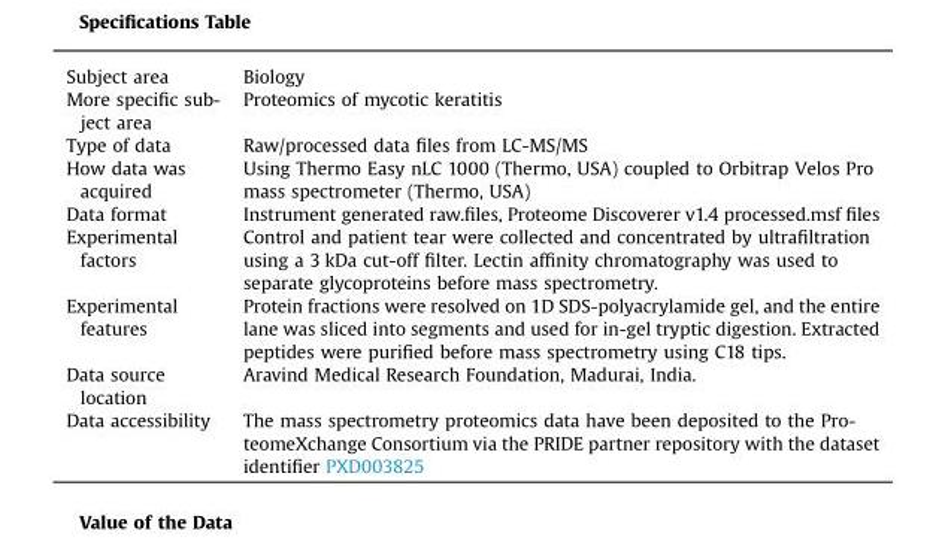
<table><tbody><tr><td>Subject area</td><td>Biology</td></tr><tr><td>More specific sub- ject area</td><td>Proteomics of mycotic keratitis</td></tr><tr><td>Type of data</td><td>Raw/processed data files from LC-MS/MS</td></tr><tr><td>How data was acquired</td><td>Using Thermo Easy nLC 1000 (Thermo, USA) coupled to Orbitrap Velos Pro mass spectrometer (Thermo, USA)</td></tr><tr><td>Data format</td><td>Instrument generated raw.files, Proteome Discoverer v1.4 processed.msf files</td></tr><tr><td>Experimental factors</td><td>Control and patient tear were collected and concentrated by ultrafiltration using a 3 kDa cut-off filter. Lectin affinity chromatography was used to separate glycoproteins before mass spectrometry.</td></tr><tr><td>Experimental features</td><td>Protein fractions were resolved on 1D SDS-polyacrylamide gel, and the entire lane was sliced into segments and used for in-gel tryptic digestion. Extracted peptides were purified before mass spectrometry using C18 tips.</td></tr><tr><td>Data source location</td><td>Aravind Medical Research Foundation, Madurai, India.</td></tr><tr><td>Data accessibility</td><td>The mass spectrometry proteomics data have been deposited to the Pro- teomeXchange Consortium via the PRIDE partner repository with the dataset identifier PXD003825</td></tr></tbody></table>